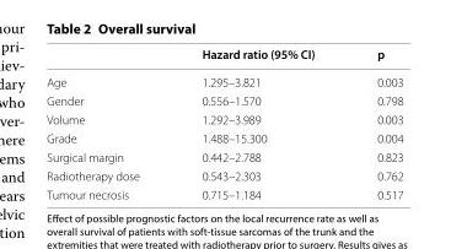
<table><thead><tr><td></td><td>Hazard ratio (95% CI)</td><td>p</td></tr></thead><tbody><tr><td>Age</td><td>1.295–3.821</td><td>0.003</td></tr><tr><td>Gender</td><td>0.556–1.570</td><td>0.798</td></tr><tr><td>Volume</td><td>1.292–3.989</td><td>0.003</td></tr><tr><td>Grade</td><td>1.488–15.300</td><td>0.004</td></tr><tr><td>Surgical margin</td><td>0.442–2.788</td><td>0.823</td></tr><tr><td>Radiotherapy dose</td><td>0.543–2.303</td><td>0.762</td></tr><tr><td>Tumour necrosis</td><td>0.715–1.184</td><td>0.517</td></tr></tbody></table>